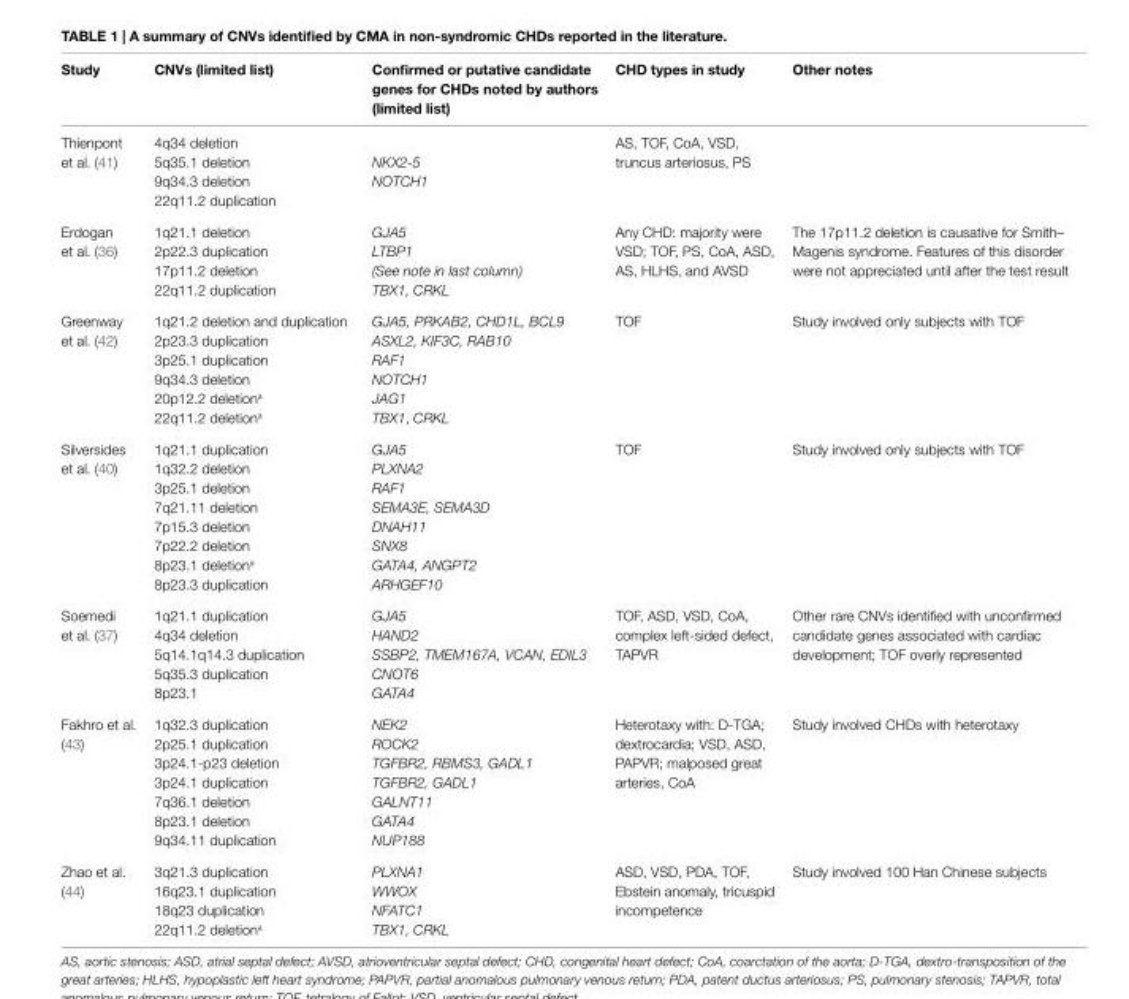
<table><thead><tr><td>Study</td><td>CNvs (limited list)</td><td>Confirmed or putative candidate genes for CHDs noted by authors (limited list)</td><td>CHD types in study</td><td>Other notes</td></tr></thead><tbody><tr><td rowspan="4">Thienpont et al. (41)</td><td>4q34 deletion</td><td></td><td rowspan="4">AS, TOF, CoA, VSD, truncus arteriosus, PS</td><td rowspan="4"></td></tr><tr><td>5q35.1 deletion</td><td>NKX2-5</td></tr><tr><td>9q34.3 deletion</td><td>NOTCH1</td></tr><tr><td>22q11.2 duplication</td><td></td></tr><tr><td rowspan="4">Erdogan et al. (36)</td><td>1q21.1 deletion</td><td>GJA5</td><td rowspan="4">Any CHD: majority were VSD; TOF, PS, CoA, ASD, AS, HLHS, and AVSD</td><td rowspan="4">The 17p11.2 deletion is causative for Smith– Magenis syndrome. Features of this disorder were not appreciated until after the test result</td></tr><tr><td>2p22.3 duplication</td><td>LTBP1</td></tr><tr><td>17p11.2 deletion</td><td>(See note in last column)</td></tr><tr><td>22q11.2 duplication</td><td>TBX1, CRKL</td></tr><tr><td rowspan="6">Greenway et al. (42)</td><td>1q21.2 deletion and duplication</td><td>GJA5, PRKAB2, CHD1L, BCL9</td><td rowspan="6">TOF</td><td rowspan="6">Study involved only subjects with TOF</td></tr><tr><td>2p23.3 duplication</td><td>ASXL2, KIF3C, RAB10</td></tr><tr><td>3p25.1 duplication</td><td>RAF1</td></tr><tr><td>9q34.3 deletion</td><td>NOTCH1</td></tr><tr><td>20p12.2 deletion<sup>a</sup></td><td>JAG1</td></tr><tr><td>22q11.2 deletion<sup>a</sup></td><td>TBX1, CRKL</td></tr><tr><td rowspan="8">Silversides et al. (40)</td><td>1q21.1 duplication</td><td>GJA5</td><td rowspan="8">TOF</td><td rowspan="8">Study involved only subjects with TOF</td></tr><tr><td>1q32.2 deletion</td><td>PLXNA2</td></tr><tr><td>3p25.1 deletion</td><td>RAF1</td></tr><tr><td>7q21.11 deletion</td><td>SEMA3E, SEMA3D</td></tr><tr><td>7p15.3 deletion</td><td>DNAH11</td></tr><tr><td>7p22.2 deletion</td><td>SNX8</td></tr><tr><td>8p23.1 deletion<sup>a</sup></td><td>GATA4, ANGPT2</td></tr><tr><td>8p23.3 duplication</td><td>ARHGEF10</td></tr><tr><td rowspan="5">Soemedi et al. (37)</td><td>1q21.1 duplication</td><td>GJA5</td><td rowspan="5">TOF, ASD, VSD, CoA, complex left-sided defect, TAPVR</td><td rowspan="5">Other rare CNVs identified with unconfirmed candidate genes associated with cardiac development; TOF overly represented</td></tr><tr><td>4q34 deletion</td><td>HAND2</td></tr><tr><td>5q14.1q14.3 duplication</td><td>SSBP2, TMEM167A, VCAN, EDIL3</td></tr><tr><td>5q35.3 duplication</td><td>CNOT6</td></tr><tr><td>8p23.1</td><td>GATA4</td></tr><tr><td rowspan="7">Fakhro et al. (43)</td><td>1q32.3 duplication</td><td>NEK2</td><td rowspan="7">Heterotaxy with: D-TGA; dextrocardia; VSD, ASD, PAPVR; malposed great arteries, CoA</td><td rowspan="7">Study involved CHDs with heterotaxy</td></tr><tr><td>2p25.1 duplication</td><td>ROCK2</td></tr><tr><td>3p24.1-p23 deletion</td><td>TGFBR2, RBMS3, GADL1</td></tr><tr><td>3p24.1 duplication</td><td>TGFBR2, GADL1</td></tr><tr><td>7q36.1 deletion</td><td>GALNT11</td></tr><tr><td>8p23.1 deletion</td><td>GATA4</td></tr><tr><td>9q34.11 duplication</td><td>NUP188</td></tr><tr><td rowspan="4">Zhao et al. (44)</td><td>3q21.3 duplication</td><td>PLXNA1</td><td rowspan="4">ASD, VSD, PDA, TOF, Ebstein anomaly, tricuspid incompetence</td><td rowspan="4">Study involved 100 Han Chinese subjects</td></tr><tr><td>16q23.1 duplication</td><td>WWOX</td></tr><tr><td>18q23 duplication</td><td>NFATC1</td></tr><tr><td>22q11.2 deletion<sup>a</sup></td><td>TBX1, CRKL</td></tr></tbody></table>